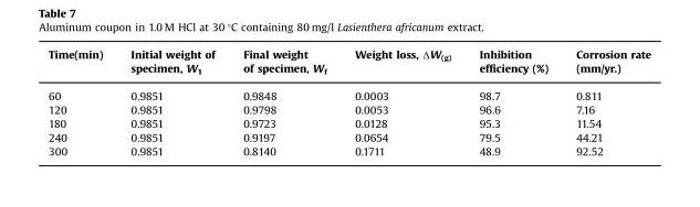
<table><thead><tr><td>Time(min)</td><td>Initial weight of specimen, W<sub>1</sub></td><td>Final weight of specimen, W<sub>f</sub></td><td>Weight loss, ΔW(g)</td><td>Inhibition efficiency (%)</td><td>Corrosion rate (mm/yr.)</td></tr></thead><tbody><tr><td>60</td><td>0.9851</td><td>0.9848</td><td>0.0003</td><td>98.7</td><td>0.811</td></tr><tr><td>120</td><td>0.9851</td><td>0.9798</td><td>0.0053</td><td>96.6</td><td>7.16</td></tr><tr><td>180</td><td>0.9851</td><td>0.9723</td><td>0.0128</td><td>95.3</td><td>11.54</td></tr><tr><td>240</td><td>0.9851</td><td>0.9197</td><td>0.0654</td><td>79.5</td><td>44.21</td></tr><tr><td>300</td><td>0.9851</td><td>0.8140</td><td>0.1711</td><td>48.9</td><td>92.52</td></tr></tbody></table>